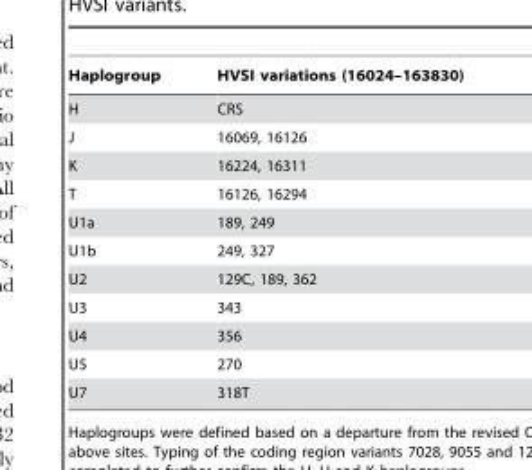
<table><thead><tr><td>Haplogroup</td><td>HVSI variations (16024–163830)</td></tr></thead><tbody><tr><td>H</td><td>CRS</td></tr><tr><td>J</td><td>16069, 16126</td></tr><tr><td>K</td><td>16224, 16311</td></tr><tr><td>T</td><td>16126, 16294</td></tr><tr><td>U1a</td><td>189, 249</td></tr><tr><td>U1b</td><td>249, 327</td></tr><tr><td>U2</td><td>129C, 189, 362</td></tr><tr><td>U3</td><td>343</td></tr><tr><td>U4</td><td>356</td></tr><tr><td>U5</td><td>270</td></tr><tr><td>U7</td><td>318T</td></tr></tbody></table>